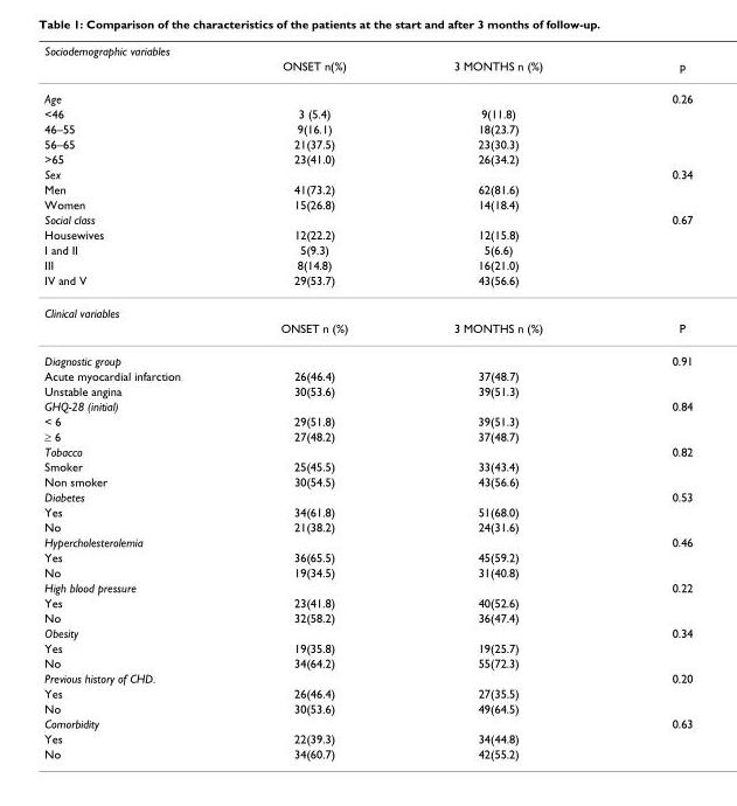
<table><thead><tr><td colspan="4">Sociodemographic variables</td></tr><tr><td></td><td>ONSET n(%)</td><td>3 MONTHS n (%)</td><td>p</td></tr></thead><tbody><tr><td>Age</td><td></td><td></td><td>0.26</td></tr><tr><td>&lt;46</td><td>3 (5.4)</td><td>9(11.8)</td><td></td></tr><tr><td>46–55</td><td>9(16.1)</td><td>18(23.7)</td><td></td></tr><tr><td>56–65</td><td>21(37.5)</td><td>23(30.3)</td><td></td></tr><tr><td>&gt;65</td><td>23(41.0)</td><td>26(34.2)</td><td></td></tr><tr><td>Sex</td><td></td><td></td><td>0.34</td></tr><tr><td>Men</td><td>41(73.2)</td><td>62(81.6)</td><td></td></tr><tr><td>Women</td><td>15(26.8)</td><td>14(18.4)</td><td></td></tr><tr><td>Social class</td><td></td><td></td><td>0.67</td></tr><tr><td>Housewives</td><td>12(22.2)</td><td>12(15.8)</td><td></td></tr><tr><td>I and II</td><td>5(9.3)</td><td>5(6.6)</td><td></td></tr><tr><td>III</td><td>8(14.8)</td><td>16(21.0)</td><td></td></tr><tr><td>IV and V</td><td>29(53.7)</td><td>43(56.6)</td><td></td></tr><tr><td colspan="4">Clinical variables</td></tr><tr><td></td><td>ONSET n (%)</td><td>3 MONTHS n (%)</td><td>P</td></tr><tr><td>Diagnostic group</td><td></td><td></td><td>0.91</td></tr><tr><td>Acute myocardial infarction</td><td>26(46.4)</td><td>37(48.7)</td><td></td></tr><tr><td>Unstable angina</td><td>30(53.6)</td><td>39(51.3)</td><td></td></tr><tr><td>GHQ-28 (initial)</td><td></td><td></td><td>0.84</td></tr><tr><td>&lt; 6</td><td>29(51.8)</td><td>39(51.3)</td><td></td></tr><tr><td>≥ 6</td><td>27(48.2)</td><td>37(48.7)</td><td></td></tr><tr><td>Tobacco</td><td></td><td></td><td>0.82</td></tr><tr><td>Smoker</td><td>25(45.5)</td><td>33(43.4)</td><td></td></tr><tr><td>Non smoker</td><td>30(54.5)</td><td>43(56.6)</td><td></td></tr><tr><td>Diabetes</td><td></td><td></td><td>0.53</td></tr><tr><td>Yes</td><td>34(61.8)</td><td>51(68.0)</td><td></td></tr><tr><td>No</td><td>21(38.2)</td><td>24(31.6)</td><td></td></tr><tr><td>Hypercholesterolemia</td><td></td><td></td><td>0.46</td></tr><tr><td>Yes</td><td>36(65.5)</td><td>45(59.2)</td><td></td></tr><tr><td>No</td><td>19(34.5)</td><td>31(40.8)</td><td></td></tr><tr><td>High blood pressure</td><td></td><td></td><td>0.22</td></tr><tr><td>Yes</td><td>23(41.8)</td><td>40(52.6)</td><td></td></tr><tr><td>No</td><td>32(58.2)</td><td>36(47.4)</td><td></td></tr><tr><td>Obesity</td><td></td><td></td><td>0.34</td></tr><tr><td>Yes</td><td>19(35.8)</td><td>19(25.7)</td><td></td></tr><tr><td>No</td><td>34(64.2)</td><td>55(72.3)</td><td></td></tr><tr><td>Previous history of CHD.</td><td></td><td></td><td>0.20</td></tr><tr><td>Yes</td><td>26(46.4)</td><td>27(35.5)</td><td></td></tr><tr><td>No</td><td>30(53.6)</td><td>49(64.5)</td><td></td></tr><tr><td>Comorbidity</td><td></td><td></td><td>0.63</td></tr><tr><td>Yes</td><td>22(39.3)</td><td>34(44.8)</td><td></td></tr><tr><td>No</td><td>34(60.7)</td><td>42(55.2)</td><td></td></tr></tbody></table>